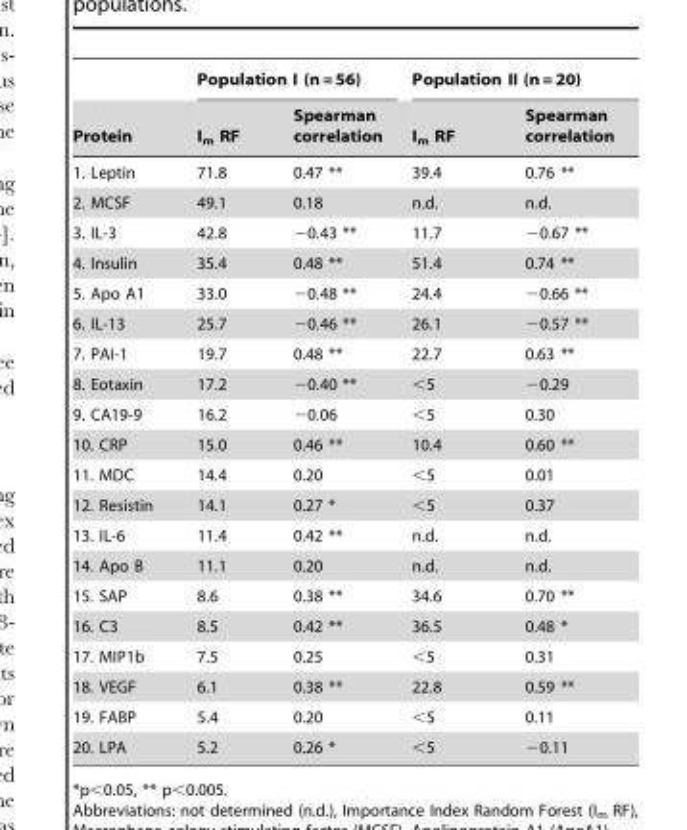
<table><thead><tr><td rowspan="2">Protein</td><td colspan="2">Population I (n = 56)</td><td colspan="2">Population II (n = 20)</td></tr><tr><td>I<sub>m</sub> RF</td><td>Spearman correlation</td><td>I<sub>m</sub> RF</td><td>Spearman correlation</td></tr></thead><tbody><tr><td>1. Leptin</td><td>71.8</td><td>0.47 **</td><td>39.4</td><td>0.76 **</td></tr><tr><td>2. MCSF</td><td>49.1</td><td>0.18</td><td>n.d.</td><td>n.d.</td></tr><tr><td>3. IL-3</td><td>42.8</td><td>−0.43 **</td><td>11.7</td><td>−0.67 **</td></tr><tr><td>4. Insulin</td><td>35.4</td><td>0.48 **</td><td>51.4</td><td>0.74 **</td></tr><tr><td>5. Apo A1</td><td>33.0</td><td>−0.48 **</td><td>24.4</td><td>−0.66 **</td></tr><tr><td>6. IL-13</td><td>25.7</td><td>−0.46 **</td><td>26.1</td><td>−0.57 **</td></tr><tr><td>7. PAI-1</td><td>19.7</td><td>0.48 **</td><td>22.7</td><td>0.63 **</td></tr><tr><td>8. Eotaxin</td><td>17.2</td><td>−0.40 **</td><td>&lt;5</td><td>−0.29</td></tr><tr><td>9. CA19-9</td><td>16.2</td><td>−0.06</td><td>&lt;5</td><td>0.30</td></tr><tr><td>10. CRP</td><td>15.0</td><td>0.46 **</td><td>10.4</td><td>0.60 **</td></tr><tr><td>11. MDC</td><td>14.4</td><td>0.20</td><td>&lt;5</td><td>0.01</td></tr><tr><td>12. Resistin</td><td>14.1</td><td>0.27 *</td><td>&lt;5</td><td>0.37</td></tr><tr><td>13. IL-6</td><td>11.4</td><td>0.42 **</td><td>n.d.</td><td>n.d.</td></tr><tr><td>14. Apo B</td><td>11.1</td><td>0.20</td><td>n.d.</td><td>n.d.</td></tr><tr><td>15. SAP</td><td>8.6</td><td>0.38 **</td><td>34.6</td><td>0.70 **</td></tr><tr><td>16. C3</td><td>8.5</td><td>0.42 **</td><td>36.5</td><td>0.48 *</td></tr><tr><td>17. MIP1b</td><td>7.5</td><td>0.25</td><td>&lt;5</td><td>0.31</td></tr><tr><td>18. VEGF</td><td>6.1</td><td>0.38 **</td><td>22.8</td><td>0.59 **</td></tr><tr><td>19. FABP</td><td>5.4</td><td>0.20</td><td>&lt;5</td><td>0.11</td></tr><tr><td>20. LPA</td><td>5.2</td><td>0.26 *</td><td>&lt;5</td><td>−0.11</td></tr></tbody></table>